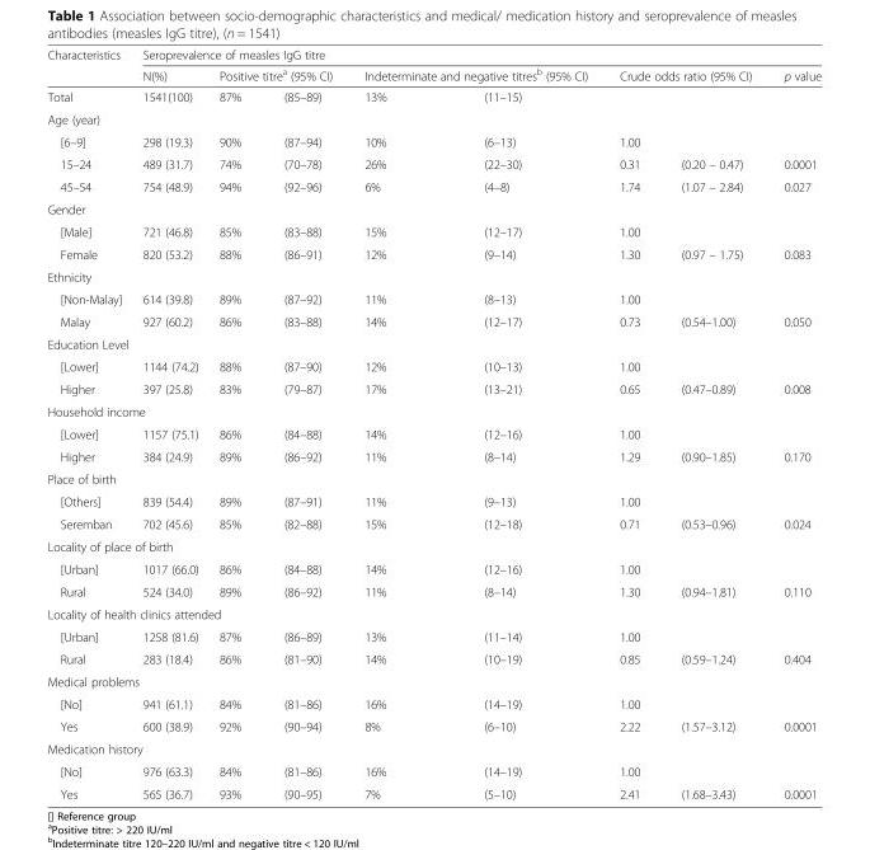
<table><thead><tr><td rowspan="3">Characteristics Total</td><td colspan="8">Seroprevalence of measles IgG titre</td></tr><tr><td rowspan="2">N(%) 1541(100)</td><td colspan="2">Positive titre<sup>a</sup> (95% CI)</td><td colspan="2">Indeterminate and negative titres<sup>b</sup> (95% CI)</td><td colspan="2">Crude odds ratio (95% CI)</td><td rowspan="2">p value</td></tr><tr><td>87%</td><td>(85–89)</td><td>13%</td><td>(11–15)</td><td></td><td></td></tr></thead><tbody><tr><td colspan="9">Age (year)</td></tr><tr><td>[6–9]</td><td>298 (19.3)</td><td>90%</td><td>(87–94)</td><td>10%</td><td>(6–13)</td><td>1.00</td><td></td><td></td></tr><tr><td>15–24</td><td>489 (31.7)</td><td>74%</td><td>(70–78)</td><td>26%</td><td>(22–30)</td><td>0.31</td><td>(0.20 – 0.47)</td><td>0.0001</td></tr><tr><td>45–54</td><td>754 (48.9)</td><td>94%</td><td>(92–96)</td><td>6%</td><td>(4–8)</td><td>1.74</td><td>(1.07 – 2.84)</td><td>0.027</td></tr><tr><td colspan="9">Gender</td></tr><tr><td>[Male]</td><td>721 (46.8)</td><td>85%</td><td>(83–88)</td><td>15%</td><td>(12–17)</td><td>1.00</td><td></td><td></td></tr><tr><td>Female</td><td>820 (53.2)</td><td>88%</td><td>(86–91)</td><td>12%</td><td>(9–14)</td><td>1.30</td><td>(0.97 – 1.75)</td><td>0.083</td></tr><tr><td colspan="9">Ethnicity</td></tr><tr><td>[Non-Malay]</td><td>614 (39.8)</td><td>89%</td><td>(87–92)</td><td>11%</td><td>(8–13)</td><td>1.00</td><td></td><td></td></tr><tr><td>Malay</td><td>927 (60.2)</td><td>86%</td><td>(83–88)</td><td>14%</td><td>(12–17)</td><td>0.73</td><td>(0.54–1.00)</td><td>0.050</td></tr><tr><td colspan="9">Education Level</td></tr><tr><td>[Lower]</td><td>1144 (74.2)</td><td>88%</td><td>(87–90)</td><td>12%</td><td>(10–13)</td><td>1.00</td><td></td><td></td></tr><tr><td>Higher</td><td>397 (25.8)</td><td>83%</td><td>(79–87)</td><td>17%</td><td>(13–21)</td><td>0.65</td><td>(0.47–0.89)</td><td>0.008</td></tr><tr><td colspan="9">Household income</td></tr><tr><td>[Lower]</td><td>1157 (75.1)</td><td>86%</td><td>(84–88)</td><td>14%</td><td>(12–16)</td><td>1.00</td><td></td><td></td></tr><tr><td>Higher</td><td>384 (24.9)</td><td>89%</td><td>(86–92)</td><td>11%</td><td>(8–14)</td><td>1.29</td><td>(0.90–1.85)</td><td>0.170</td></tr><tr><td colspan="9">Place of birth</td></tr><tr><td>[Others]</td><td>839 (54.4)</td><td>89%</td><td>(87–91)</td><td>11%</td><td>(9–13)</td><td>1.00</td><td></td><td></td></tr><tr><td>Seremban</td><td>702 (45.6)</td><td>85%</td><td>(82–88)</td><td>15%</td><td>(12–18)</td><td>0.71</td><td>(0.53–0.96)</td><td>0.024</td></tr><tr><td colspan="9">Locality of place of birth</td></tr><tr><td>[Urban]</td><td>1017 (66.0)</td><td>86%</td><td>(84–88)</td><td>14%</td><td>(12–16)</td><td>1.00</td><td></td><td></td></tr><tr><td>Rural</td><td>524 (34.0)</td><td>89%</td><td>(86–92)</td><td>11%</td><td>(8–14)</td><td>1.30</td><td>(0.94–1.81)</td><td>0.110</td></tr><tr><td colspan="9">Locality of health clinics attended</td></tr><tr><td>[Urban]</td><td>1258 (81.6)</td><td>87%</td><td>(86–89)</td><td>13%</td><td>(11–14)</td><td>1.00</td><td></td><td></td></tr><tr><td>Rural</td><td>283 (18.4)</td><td>86%</td><td>(81–90)</td><td>14%</td><td>(10–19)</td><td>0.85</td><td>(0.59–1.24)</td><td>0.404</td></tr><tr><td colspan="9">Medical problems</td></tr><tr><td>[No]</td><td>941 (61.1)</td><td>84%</td><td>(81–86)</td><td>16%</td><td>(14–19)</td><td>1.00</td><td></td><td></td></tr><tr><td>Yes</td><td>600 (38.9)</td><td>92%</td><td>(90–94)</td><td>8%</td><td>(6–10)</td><td>2.22</td><td>(1.57–3.12)</td><td>0.0001</td></tr><tr><td colspan="9">Medication history</td></tr><tr><td>[No]</td><td>976 (63.3)</td><td>84%</td><td>(81–86)</td><td>16%</td><td>(14–19)</td><td>1.00</td><td></td><td></td></tr><tr><td>Yes</td><td>565 (36.7)</td><td>93%</td><td>(90–95)</td><td>7%</td><td>(5–10)</td><td>2.41</td><td>(1.68–3.43)</td><td>0.0001</td></tr></tbody></table>